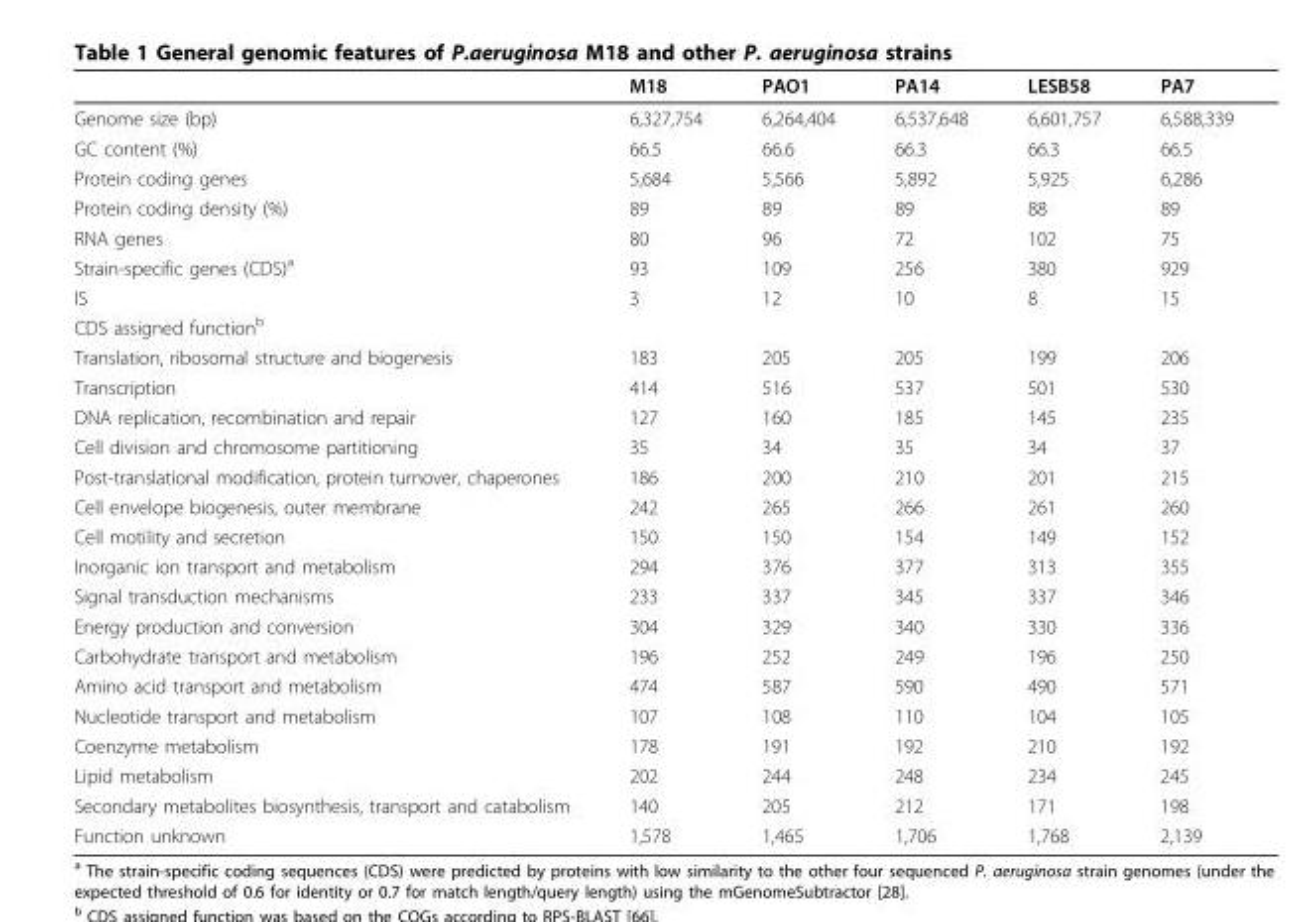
<table><thead><tr><td></td><td>M18</td><td>PAO1</td><td>PA14</td><td>LESB58</td><td>PA7</td></tr></thead><tbody><tr><td>Genome size (bp)</td><td>6,327,754</td><td>6,264,404</td><td>6,537,648</td><td>6,601,757</td><td>6,588,339</td></tr><tr><td>GC content (%)</td><td>66.5</td><td>66.6</td><td>66.3</td><td>66.3</td><td>66.5</td></tr><tr><td>Protein coding genes</td><td>5,684</td><td>5,566</td><td>5,892</td><td>5,925</td><td>6,286</td></tr><tr><td>Protein coding density (%)</td><td>89</td><td>89</td><td>89</td><td>88</td><td>89</td></tr><tr><td>RNA genes</td><td>80</td><td>96</td><td>72</td><td>102</td><td>75</td></tr><tr><td>Strain-specific genes (CDS)<sup>a</sup></td><td>93</td><td>109</td><td>256</td><td>380</td><td>929</td></tr><tr><td>IS</td><td>3</td><td>12</td><td>10</td><td>8</td><td>15</td></tr><tr><td colspan="6">CDS assigned function<sup>b</sup></td></tr><tr><td>Translation, ribosomal structure and biogenesis</td><td>183</td><td>205</td><td>205</td><td>199</td><td>206</td></tr><tr><td>Transcription</td><td>414</td><td>516</td><td>537</td><td>501</td><td>530</td></tr><tr><td>DNA replication, recombination and repair</td><td>127</td><td>160</td><td>185</td><td>145</td><td>235</td></tr><tr><td>Cell division and chromosome partitioning</td><td>35</td><td>34</td><td>35</td><td>34</td><td>37</td></tr><tr><td>Post-translational modification, protein turnover, chaperones</td><td>186</td><td>200</td><td>210</td><td>201</td><td>215</td></tr><tr><td>Cell envelope biogenesis, outer membrane</td><td>242</td><td>265</td><td>266</td><td>261</td><td>260</td></tr><tr><td>Cell motility and secretion</td><td>150</td><td>150</td><td>154</td><td>149</td><td>152</td></tr><tr><td>Inorganic ion transport and metabolism</td><td>294</td><td>376</td><td>377</td><td>313</td><td>355</td></tr><tr><td>Signal transduction mechanisms</td><td>233</td><td>337</td><td>345</td><td>337</td><td>346</td></tr><tr><td>Energy production and conversion</td><td>304</td><td>329</td><td>340</td><td>330</td><td>336</td></tr><tr><td>Carbohydrate transport and metabolism</td><td>196</td><td>252</td><td>249</td><td>196</td><td>250</td></tr><tr><td>Amino acid transport and metabolism</td><td>474</td><td>587</td><td>590</td><td>490</td><td>571</td></tr><tr><td>Nucleotide transport and metabolism</td><td>107</td><td>108</td><td>110</td><td>104</td><td>105</td></tr><tr><td>Coenzyme metabolism</td><td>178</td><td>191</td><td>192</td><td>210</td><td>192</td></tr><tr><td>Lipid metabolism</td><td>202</td><td>244</td><td>248</td><td>234</td><td>245</td></tr><tr><td>Secondary metabolites biosynthesis, transport and catabolism</td><td>140</td><td>205</td><td>212</td><td>171</td><td>198</td></tr><tr><td>Function unknown</td><td>1,578</td><td>1,465</td><td>1,706</td><td>1,768</td><td>2,139</td></tr></tbody></table>